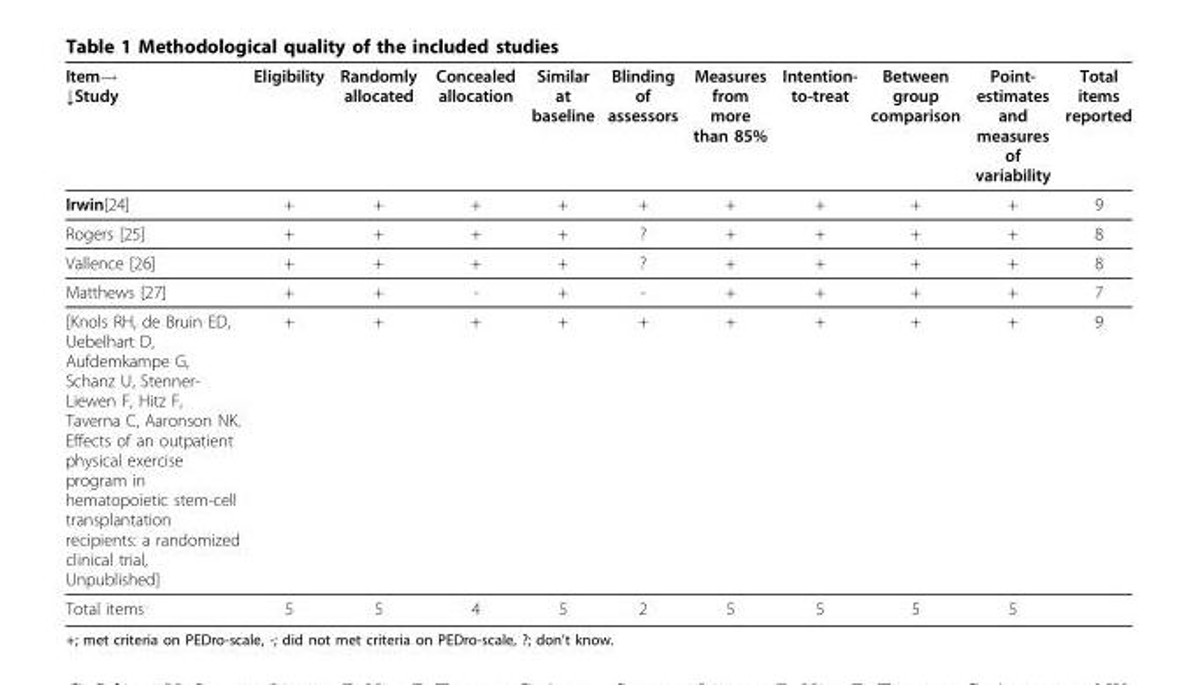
<table><thead><tr><td>Item→ ↓Study</td><td>Eligibility</td><td>Randomly allocated</td><td>Concealed allocation</td><td>Similar at baseline</td><td>Blinding of assessors</td><td>Measures from more than 85%</td><td>Intention- to-treat</td><td>Between group comparison</td><td>Point- estimates and measures of variability</td><td>Total items reported</td></tr></thead><tbody><tr><td>Irwin[24]</td><td>+</td><td>+</td><td>+</td><td>+</td><td>+</td><td>+</td><td>+</td><td>+</td><td>+</td><td>9</td></tr><tr><td>Rogers [25]</td><td>+</td><td>+</td><td>+</td><td>+</td><td>?</td><td>+</td><td>+</td><td>+</td><td>+</td><td>8</td></tr><tr><td>Vallence [26]</td><td>+</td><td>+</td><td>+</td><td>+</td><td>?</td><td>+</td><td>+</td><td>+</td><td>+</td><td>8</td></tr><tr><td>Matthews [27]</td><td>+</td><td>+</td><td>-</td><td>+</td><td>-</td><td>+</td><td>+</td><td>+</td><td>+</td><td>7</td></tr><tr><td>[Knols RH, de Bruin ED, Uebelhart D, Aufdemkampe G, Schanz U, Stenner- Liewen F, Hitz F, Taverna C, Aaronson NK. Effects of an outpatient physical exercise program in hematopoietic stem-cell transplantation recipients: a randomized clinical trial, Unpublished]</td><td>+</td><td>+</td><td>+</td><td>+</td><td>+</td><td>+</td><td>+</td><td>+</td><td>+</td><td>9</td></tr><tr><td>Total items</td><td>5</td><td>5</td><td>4</td><td>5</td><td>2</td><td>5</td><td>5</td><td>5</td><td>5</td><td></td></tr></tbody></table>